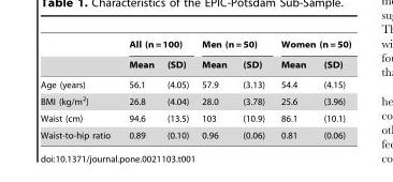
<table><thead><tr><td rowspan="2"></td><td colspan="2">All (n = 100)</td><td colspan="2">Men (n = 50)</td><td colspan="2">Women (n = 50)</td></tr><tr><td>Mean</td><td>(SD)</td><td>Mean</td><td>(SD)</td><td>Mean</td><td>(SD)</td></tr></thead><tbody><tr><td>Age (years)</td><td>56.1</td><td>(4.05)</td><td>57.9</td><td>(3.13)</td><td>54.4</td><td>(4.15)</td></tr><tr><td>BMI (kg/m<sup>2</sup>)</td><td>26.8</td><td>(4.04)</td><td>28.0</td><td>(3.78)</td><td>25.6</td><td>(3.96)</td></tr><tr><td>Waist (cm)</td><td>94.6</td><td>(13.5)</td><td>103</td><td>(10.9)</td><td>86.1</td><td>(10.1)</td></tr><tr><td>Waist-to-hip ratio</td><td>0.89</td><td>(0.10)</td><td>0.96</td><td>(0.06)</td><td>0.81</td><td>(0.06)</td></tr></tbody></table>